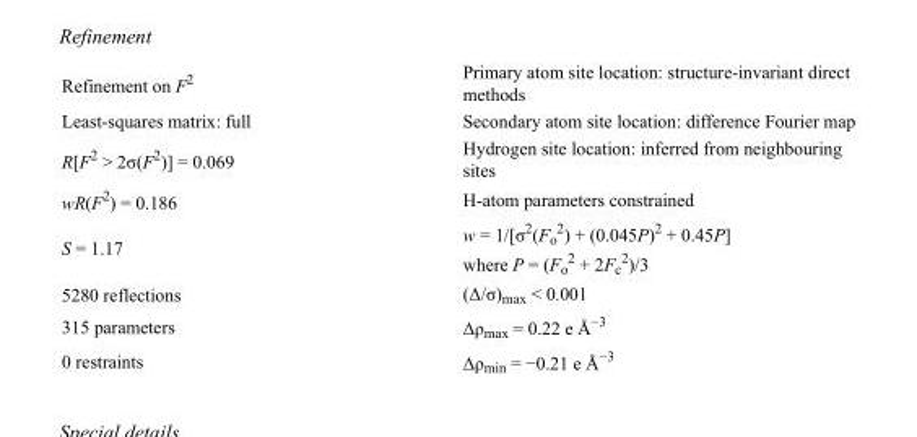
<table><tbody><tr><td>Refinement on F<sup>2</sup></td><td>Primary atom site location: structure-invariant direct methods</td></tr><tr><td>Least-squares matrix: full</td><td>Secondary atom site location: difference Fourier map</td></tr><tr><td>R[F<sup>2</sup> &gt; 2σ(F<sup>2</sup>)] = 0.069</td><td>Hydrogen site location: inferred from neighbouring sites</td></tr><tr><td>wR(F<sup>2</sup>) = 0.186</td><td>H-atom parameters constrained</td></tr><tr><td>S = 1.17</td><td>w = 1/[σ<sup>2</sup>(F<sub>o</sub> <sup>2</sup>) + (0.045P)<sup>2</sup> + 0.45P] where P = (F<sub>o</sub> <sup>2</sup> + 2F<sub>c</sub> <sup>2</sup>)/3</td></tr><tr><td>5280 reflections</td><td>(Δ/σ)<sub>max</sub> &lt; 0.001</td></tr><tr><td>315 parameters</td><td>Δρ<sub>max</sub> = 0.22 e Å<sup>−3</sup></td></tr><tr><td>0 restraints</td><td>Δρ<sub>min</sub> = −0.21 e Å<sup>−3</sup></td></tr></tbody></table>